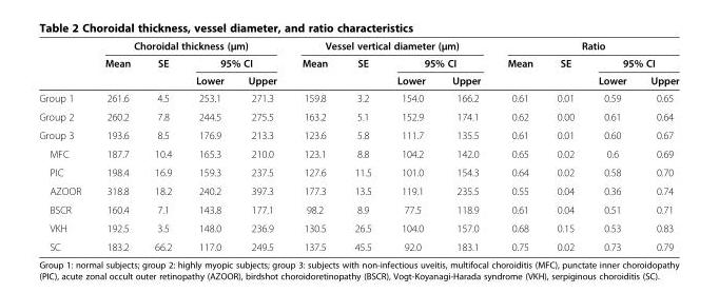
<table><thead><tr><td rowspan="3"></td><td colspan="4">Choroidal thickness (μm)</td><td colspan="4">Vessel vertical diameter (μm)</td><td colspan="4">Ratio</td></tr><tr><td rowspan="2">Mean</td><td rowspan="2">SE</td><td colspan="2">95% CI</td><td rowspan="2">Mean</td><td rowspan="2">SE</td><td colspan="2">95% CI</td><td rowspan="2">Mean</td><td rowspan="2">SE</td><td colspan="2">95% CI</td></tr><tr><td>Lower</td><td>Upper</td><td>Lower</td><td>Upper</td><td>Lower</td><td>Upper</td></tr></thead><tbody><tr><td>Group 1</td><td>261.6</td><td>4.5</td><td>253.1</td><td>271.3</td><td>159.8</td><td>3.2</td><td>154.0</td><td>166.2</td><td>0.61</td><td>0.01</td><td>0.59</td><td>0.65</td></tr><tr><td>Group 2</td><td>260.2</td><td>7.8</td><td>244.5</td><td>275.5</td><td>163.2</td><td>5.1</td><td>152.9</td><td>174.1</td><td>0.62</td><td>0.00</td><td>0.61</td><td>0.64</td></tr><tr><td>Group 3</td><td>193.6</td><td>8.5</td><td>176.9</td><td>213.3</td><td>123.6</td><td>5.8</td><td>111.7</td><td>135.5</td><td>0.61</td><td>0.01</td><td>0.60</td><td>0.67</td></tr><tr><td>MFC</td><td>187.7</td><td>10.4</td><td>165.3</td><td>210.0</td><td>123.1</td><td>8.8</td><td>104.2</td><td>142.0</td><td>0.65</td><td>0.02</td><td>0.6</td><td>0.69</td></tr><tr><td>PIC</td><td>198.4</td><td>16.9</td><td>159.3</td><td>237.5</td><td>127.6</td><td>11.5</td><td>101.0</td><td>154.3</td><td>0.64</td><td>0.02</td><td>0.58</td><td>0.70</td></tr><tr><td>AZOOR</td><td>318.8</td><td>18.2</td><td>240.2</td><td>397.3</td><td>177.3</td><td>13.5</td><td>119.1</td><td>235.5</td><td>0.55</td><td>0.04</td><td>0.36</td><td>0.74</td></tr><tr><td>BSCR</td><td>160.4</td><td>7.1</td><td>143.8</td><td>177.1</td><td>98.2</td><td>8.9</td><td>77.5</td><td>118.9</td><td>0.61</td><td>0.04</td><td>0.51</td><td>0.71</td></tr><tr><td>VKH</td><td>192.5</td><td>3.5</td><td>148.0</td><td>236.9</td><td>130.5</td><td>26.5</td><td>104.0</td><td>157.0</td><td>0.68</td><td>0.15</td><td>0.53</td><td>0.83</td></tr><tr><td>SC</td><td>183.2</td><td>66.2</td><td>117.0</td><td>249.5</td><td>137.5</td><td>45.5</td><td>92.0</td><td>183.1</td><td>0.75</td><td>0.02</td><td>0.73</td><td>0.79</td></tr></tbody></table>